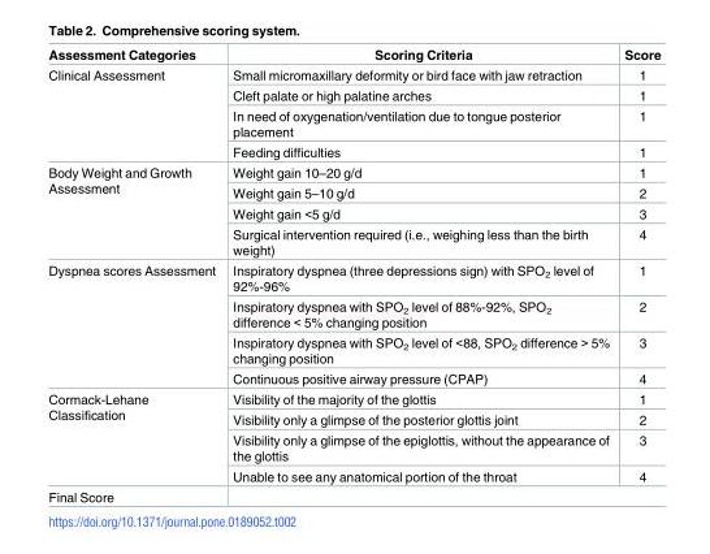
<table><thead><tr><td>Assessment Categories</td><td>Scoring Criteria</td><td>Score</td></tr></thead><tbody><tr><td rowspan="4">Clinical Assessment</td><td>Small micromaxillary deformity or bird face with jaw retraction</td><td>1</td></tr><tr><td>Cleft palate or high palatine arches</td><td>1</td></tr><tr><td>In need of oxygenation/ventilation due to tongue posterior placement</td><td>1</td></tr><tr><td>Feeding difficulties</td><td>1</td></tr><tr><td rowspan="4">Body Weight and Growth Assessment</td><td>Weight gain 10–20 g/d</td><td>1</td></tr><tr><td>Weight gain 5–10 g/d</td><td>2</td></tr><tr><td>Weight gain &lt;5 g/d</td><td>3</td></tr><tr><td>Surgical intervention required (i.e., weighing less than the birth weight)</td><td>4</td></tr><tr><td rowspan="4">Dyspnea scores Assessment</td><td>Inspiratory dyspnea (three depressions sign) with SPO<sub>2</sub> level of 92%-96%</td><td>1</td></tr><tr><td>Inspiratory dyspnea with SPO<sub>2</sub> level of 88%-92%, SPO<sub>2</sub> difference &lt; 5% changing position</td><td>2</td></tr><tr><td>Inspiratory dyspnea with SPO<sub>2</sub> level of &lt;88, SPO<sub>2</sub> difference &gt; 5% changing position</td><td>3</td></tr><tr><td>Continuous positive airway pressure (CPAP)</td><td>4</td></tr><tr><td rowspan="4">Cormack-Lehane Classification</td><td>Visibility of the majority of the glottis</td><td>1</td></tr><tr><td>Visibility only a glimpse of the posterior glottis joint</td><td>2</td></tr><tr><td>Visibility only a glimpse of the epiglottis, without the appearance of the glottis</td><td>3</td></tr><tr><td>Unable to see any anatomical portion of the throat</td><td>4</td></tr><tr><td>Final Score</td><td colspan="2"></td></tr></tbody></table>